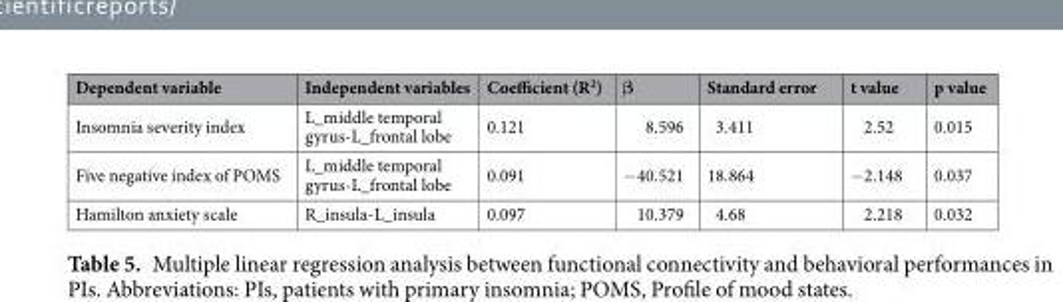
<table><thead><tr><td>Dependent variable</td><td>Independent variables</td><td>Coefficient (R<sup>2</sup>)</td><td>β</td><td>Standard error</td><td>t value</td><td>p value</td></tr></thead><tbody><tr><td>Insomnia severity index</td><td>L_middle temporal gyrus-L_frontal lobe</td><td>0.121</td><td>8.596</td><td>3.411</td><td>2.52</td><td>0.015</td></tr><tr><td>Five negative index of POMS</td><td>L_middle temporal gyrus-L_frontal lobe</td><td>0.091</td><td>−40.521</td><td>18.864</td><td>−2.148</td><td>0.037</td></tr><tr><td>Hamilton anxiety scale</td><td>R_insula-L_insula</td><td>0.097</td><td>10.379</td><td>4.68</td><td>2.218</td><td>0.032</td></tr></tbody></table>